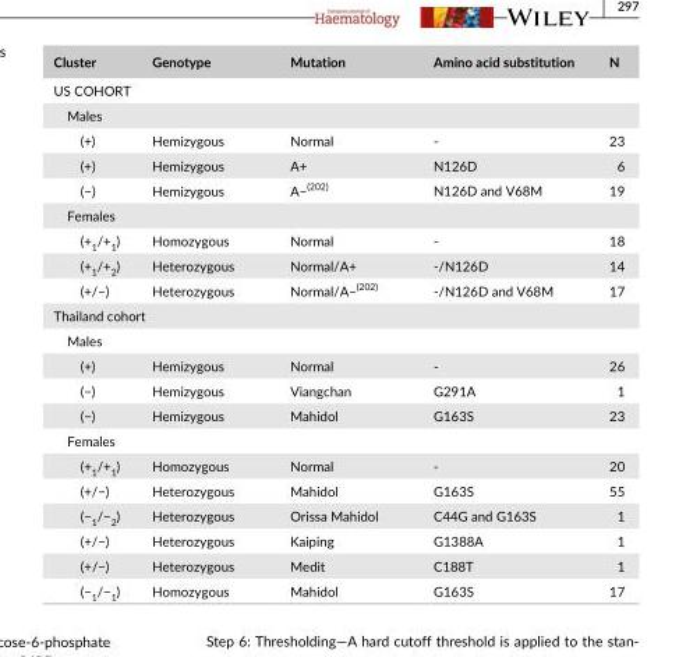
<table><thead><tr><td>Cluster</td><td>Genotype</td><td>Mutation</td><td>Amino acid substitution</td><td>N</td></tr></thead><tbody><tr><td colspan="5">US COHORT</td></tr><tr><td colspan="5">Males</td></tr><tr><td>(+)</td><td>Hemizygous</td><td>Normal</td><td>-</td><td>23</td></tr><tr><td>(+)</td><td>Hemizygous</td><td>A+</td><td>N126D</td><td>6</td></tr><tr><td>(−)</td><td>Hemizygous</td><td>A−<sup>(202)</sup></td><td>N126D and V68M</td><td>19</td></tr><tr><td colspan="5">Females</td></tr><tr><td>(+<sub>1</sub>/+<sub>1</sub>)</td><td>Homozygous</td><td>Normal</td><td>-</td><td>18</td></tr><tr><td>(+<sub>1</sub>/+<sub>2</sub>)</td><td>Heterozygous</td><td>Normal/A+</td><td>- /N126D</td><td>14</td></tr><tr><td>(+/−)</td><td>Heterozygous</td><td>Normal/A−<sup>(202)</sup></td><td>- /N126D and V68M</td><td>17</td></tr><tr><td colspan="5">Thailand cohort</td></tr><tr><td colspan="5">Males</td></tr><tr><td>(+)</td><td>Hemizygous</td><td>Normal</td><td>-</td><td>26</td></tr><tr><td>(−)</td><td>Hemizygous</td><td>Viangchan</td><td>G291A</td><td>1</td></tr><tr><td>(−)</td><td>Hemizygous</td><td>Mahidol</td><td>G163S</td><td>23</td></tr><tr><td colspan="5">Females</td></tr><tr><td>(+<sub>1</sub>/+<sub>1</sub>)</td><td>Homozygous</td><td>Normal</td><td>-</td><td>20</td></tr><tr><td>(+/−)</td><td>Heterozygous</td><td>Mahidol</td><td>G163S</td><td>55</td></tr><tr><td>(−<sub>1</sub>/−<sub>2</sub>)</td><td>Heterozygous</td><td>Orissa Mahidol</td><td>C44G and G163S</td><td>1</td></tr><tr><td>(+/−)</td><td>Heterozygous</td><td>Kaiping</td><td>G1388A</td><td>1</td></tr><tr><td>(+/−)</td><td>Heterozygous</td><td>Medit</td><td>C188T</td><td>1</td></tr><tr><td>(−<sub>1</sub>/−<sub>1</sub>)</td><td>Homozygous</td><td>Mahidol</td><td>G163S</td><td>17</td></tr></tbody></table>